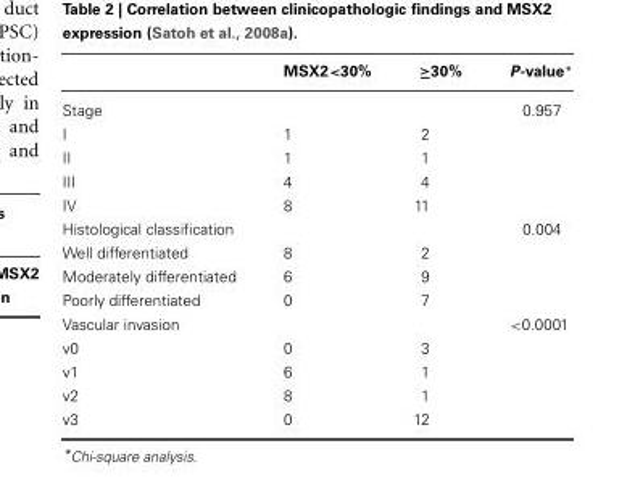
<table><thead><tr><td></td><td>MSX2&lt;30%</td><td>≥30%</td><td>P-value*</td></tr></thead><tbody><tr><td>Stage</td><td></td><td></td><td>0.957</td></tr><tr><td>I</td><td>1</td><td>2</td><td></td></tr><tr><td>II</td><td>1</td><td>1</td><td></td></tr><tr><td>III</td><td>4</td><td>4</td><td></td></tr><tr><td>IV</td><td>8</td><td>11</td><td></td></tr><tr><td>Histological classification</td><td></td><td></td><td>0.004</td></tr><tr><td>Well differentiated</td><td>8</td><td>2</td><td></td></tr><tr><td>Moderately differentiated</td><td>6</td><td>9</td><td></td></tr><tr><td>Poorly differentiated</td><td>0</td><td>7</td><td></td></tr><tr><td>Vascular invasion</td><td></td><td></td><td>&lt;0.0001</td></tr><tr><td>v0</td><td>0</td><td>3</td><td></td></tr><tr><td>v1</td><td>6</td><td>1</td><td></td></tr><tr><td>v2</td><td>8</td><td>1</td><td></td></tr><tr><td>v3</td><td>0</td><td>12</td><td></td></tr></tbody></table>